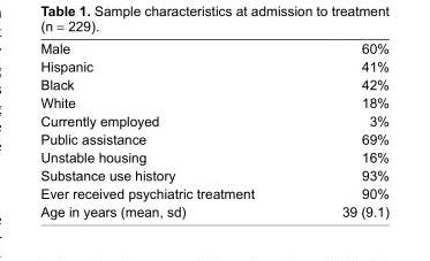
<table><tbody><tr><td>Male</td><td>60%</td></tr><tr><td>hispanic</td><td>41%</td></tr><tr><td>Black</td><td>42%</td></tr><tr><td>White</td><td>18%</td></tr><tr><td>Currently employed</td><td>3%</td></tr><tr><td>Public assistance</td><td>69%</td></tr><tr><td>Unstable housing</td><td>16%</td></tr><tr><td>Substance use history</td><td>93%</td></tr><tr><td>ever received psychiatric treatment</td><td>90%</td></tr><tr><td>Age in years (mean, sd)</td><td>39 (9.1)</td></tr></tbody></table>